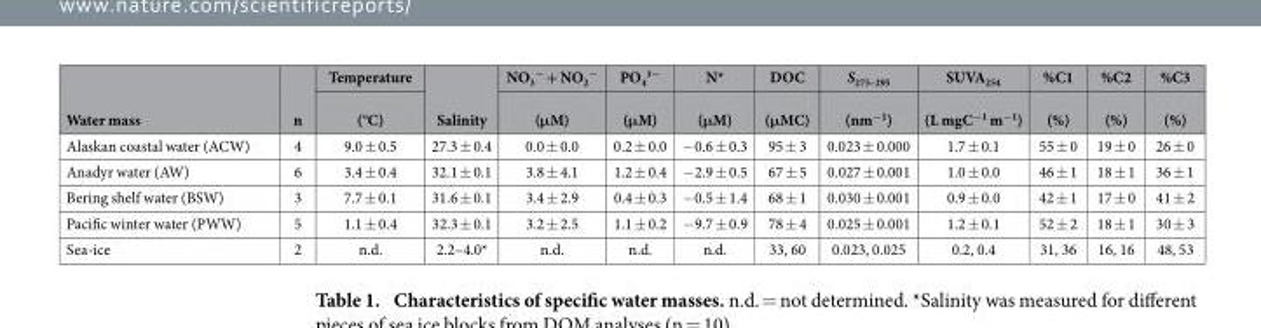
<table><thead><tr><td rowspan="2">Water mass</td><td rowspan="2">n</td><td rowspan="2">Temperature (°C)</td><td rowspan="2">Salinity</td><td rowspan="2">NO<sub>3</sub> <sup>−</sup> + NO<sub>2</sub> <sup>−</sup> (μM)</td><td rowspan="2">PO<sub>4</sub> <sup>3−</sup> (μM)</td><td rowspan="2">N* (μM)</td><td rowspan="2">DOC (μMC)</td><td rowspan="2">S<sub>275–295</sub> (nm<sup>−1</sup>)</td><td rowspan="2">SUVA<sub>254</sub> (L mgC<sup>−1</sup> m<sup>−1</sup>)</td><td rowspan="2">%C1 (%)</td><td rowspan="2">%C2 (%)</td><td rowspan="2">%C3 (%)</td></tr><tr></tr></thead><tbody><tr><td>Alaskan coastal water (ACW)</td><td>4</td><td>9.0 ± 0.5</td><td>27.3 ± 0.4</td><td>0.0 ± 0.0</td><td>0.2 ± 0.0</td><td>− 0.6 ± 0.3</td><td>95 ± 3</td><td>0.023 ± 0.000</td><td>1.7 ± 0.1</td><td>55 ± 0</td><td>19 ± 0</td><td>26 ± 0</td></tr><tr><td>Anadyr water (AW)</td><td>6</td><td>3.4 ± 0.4</td><td>32.1 ± 0.1</td><td>3.8 ± 4.1</td><td>1.2 ± 0.4</td><td>− 2.9 ± 0.5</td><td>67 ± 5</td><td>0.027 ± 0.001</td><td>1.0 ± 0.0</td><td>46 ± 1</td><td>18 ± 1</td><td>36 ± 1</td></tr><tr><td>Bering shelf water (BSW)</td><td>3</td><td>7.7 ± 0.1</td><td>31.6 ± 0.1</td><td>3.4 ± 2.9</td><td>0.4 ± 0.3</td><td>− 0.5 ± 1.4</td><td>68 ± 1</td><td>0.030 ± 0.001</td><td>0.9 ± 0.0</td><td>42 ± 1</td><td>17 ± 0</td><td>41 ± 2</td></tr><tr><td>Pacific winter water (PWW)</td><td>5</td><td>1.1 ± 0.4</td><td>32.3 ± 0.1</td><td>3.2 ± 2.5</td><td>1.1 ± 0.2</td><td>− 9.7 ± 0.9</td><td>78 ± 4</td><td>0.025 ± 0.001</td><td>1.2 ± 0.1</td><td>52 ± 2</td><td>18 ± 1</td><td>30 ± 3</td></tr><tr><td>Sea-ice</td><td>2</td><td>n.d.</td><td>2.2–4.0*</td><td>n.d.</td><td>n.d.</td><td>n.d.</td><td>33, 60</td><td>0.023, 0.025</td><td>0.2, 0.4</td><td>31, 36</td><td>16, 16</td><td>48, 53</td></tr></tbody></table>